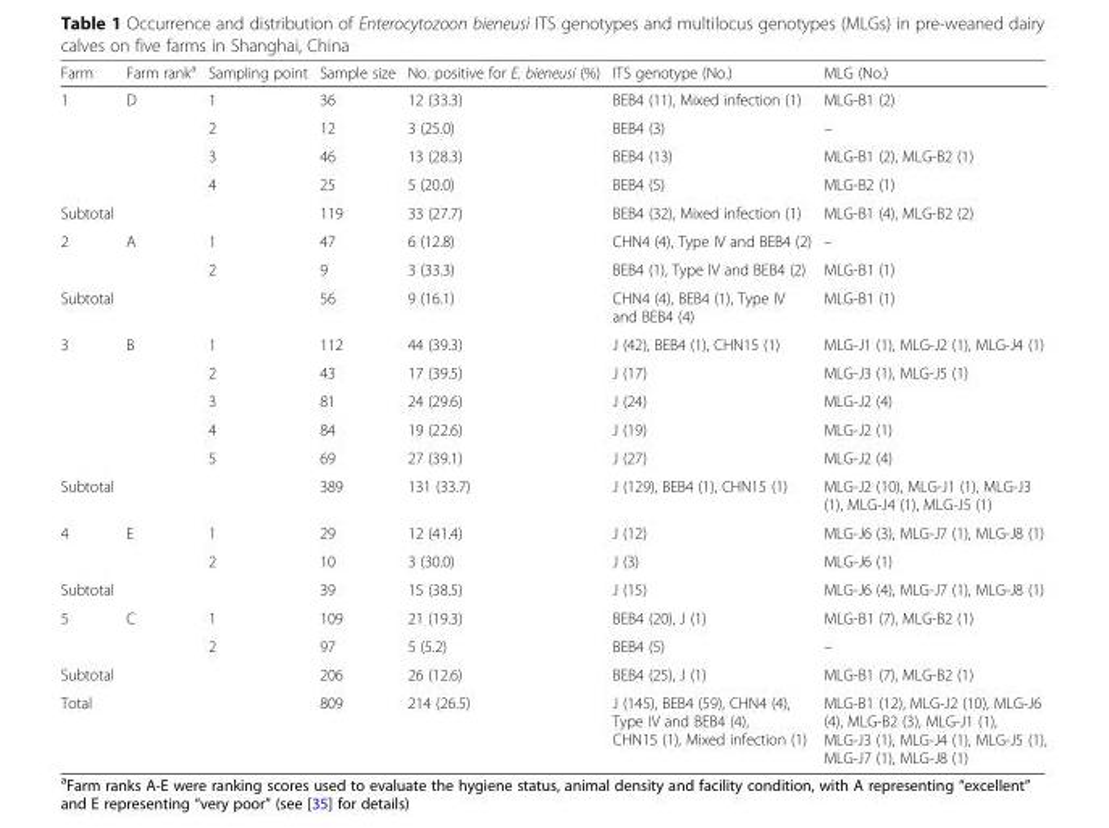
<table><thead><tr><td>Farm</td><td>Farm rank<sup>a</sup></td><td>Sampling point</td><td>Sample size</td><td>No. positive for E. bieneusi (%)</td><td>ITS genotype (No.)</td><td>MLG (No.)</td></tr></thead><tbody><tr><td rowspan="4">1</td><td rowspan="4">D</td><td>1</td><td>36</td><td>12 (33.3)</td><td>BEB4 (11), Mixed infection (1)</td><td>MLG-B1 (2)</td></tr><tr><td>2</td><td>12</td><td>3 (25.0)</td><td>BEB4 (3)</td><td>–</td></tr><tr><td>3</td><td>46</td><td>13 (28.3)</td><td>BEB4 (13)</td><td>MLG-B1 (2), MLG-B2 (1)</td></tr><tr><td>4</td><td>25</td><td>5 (20.0)</td><td>BEB4 (5)</td><td>MLG-B2 (1)</td></tr><tr><td>Subtotal</td><td></td><td></td><td>119</td><td>33 (27.7)</td><td>BEB4 (32), Mixed infection (1)</td><td>MLG-B1 (4), MLG-B2 (2)</td></tr><tr><td rowspan="2">2</td><td rowspan="2">A</td><td>1</td><td>47</td><td>6 (12.8)</td><td>CHN4 (4), Type IV and BEB4 (2)</td><td>–</td></tr><tr><td>2</td><td>9</td><td>3 (33.3)</td><td>BEB4 (1), Type IV and BEB4 (2)</td><td>MLG-B1 (1)</td></tr><tr><td>Subtotal</td><td></td><td></td><td>56</td><td>9 (16.1)</td><td>CHN4 (4), BEB4 (1), Type IV and BEB4 (4)</td><td>MLG-B1 (1)</td></tr><tr><td rowspan="5">3</td><td rowspan="5">B</td><td>1</td><td>112</td><td>44 (39.3)</td><td>J (42), BEB4 (1), CHN15 (1)</td><td>MLG-J1 (1), MLG-J2 (1), MLG-J4 (1)</td></tr><tr><td>2</td><td>43</td><td>17 (39.5)</td><td>J (17)</td><td>MLG-J3 (1), MLG-J5 (1)</td></tr><tr><td>3</td><td>81</td><td>24 (29.6)</td><td>J (24)</td><td>MLG-J2 (4)</td></tr><tr><td>4</td><td>84</td><td>19 (22.6)</td><td>J (19)</td><td>MLG-J2 (1)</td></tr><tr><td>5</td><td>69</td><td>27 (39.1)</td><td>J (27)</td><td>MLG-J2 (4)</td></tr><tr><td>Subtotal</td><td></td><td></td><td>389</td><td>131 (33.7)</td><td>J (129), BEB4 (1), CHN15 (1)</td><td>MLG-J2 (10), MLG-J1 (1), MLG-J3 (1), MLG-J4 (1), MLG-J5 (1)</td></tr><tr><td rowspan="2">4</td><td rowspan="2">E</td><td>1</td><td>29</td><td>12 (41.4)</td><td>J (12)</td><td>MLG-J6 (3), MLG-J7 (1), MLG-J8 (1)</td></tr><tr><td>2</td><td>10</td><td>3 (30.0)</td><td>J (3)</td><td>MLG-J6 (1)</td></tr><tr><td>Subtotal</td><td></td><td></td><td>39</td><td>15 (38.5)</td><td>J (15)</td><td>MLG-J6 (4), MLG-J7 (1), MLG-J8 (1)</td></tr><tr><td rowspan="2">5</td><td rowspan="2">C</td><td>1</td><td>109</td><td>21 (19.3)</td><td>BEB4 (20), J (1)</td><td>MLG-B1 (7), MLG-B2 (1)</td></tr><tr><td>2</td><td>97</td><td>5 (5.2)</td><td>BEB4 (5)</td><td>–</td></tr><tr><td>Subtotal</td><td></td><td></td><td>206</td><td>26 (12.6)</td><td>BEB4 (25), J (1)</td><td>MLG-B1 (7), MLG-B2 (1)</td></tr><tr><td>Total</td><td></td><td></td><td>809</td><td>214 (26.5)</td><td>J (145), BEB4 (59), CHN4 (4), Type IV and BEB4 (4), CHN15 (1), Mixed infection (1)</td><td>MLG-B1 (12), MLG-J2 (10), MLG-J6 (4), MLG-B2 (3), MLG-J1 (1), MLG-J3 (1), MLG-J4 (1), MLG-J5 (1), MLG-J7 (1), MLG-J8 (1)</td></tr></tbody></table>